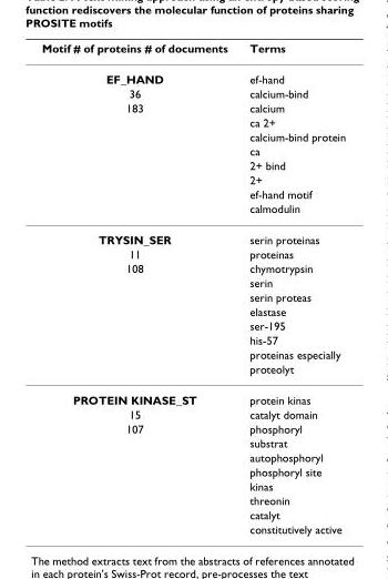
<table><thead><tr><td>Motif # of proteins # of documents</td><td>Terms</td></tr></thead><tbody><tr><td>EF_HAND</td><td>ef-hand</td></tr><tr><td>36</td><td>calcium-bind</td></tr><tr><td rowspan="8">183</td><td>calcium</td></tr><tr><td>ca 2+</td></tr><tr><td>calcium-bind protein</td></tr><tr><td>ca</td></tr><tr><td>2+ bind</td></tr><tr><td>2+</td></tr><tr><td>ef-hand motif</td></tr><tr><td>calmodulin</td></tr><tr><td>TRYSIN_SER</td><td>serin proteinas</td></tr><tr><td>11</td><td>proteinas</td></tr><tr><td rowspan="8">108</td><td>chymotrypsin</td></tr><tr><td>serin</td></tr><tr><td>serin proteas</td></tr><tr><td>elastase</td></tr><tr><td>ser-195</td></tr><tr><td>his-57</td></tr><tr><td>proteinas especially</td></tr><tr><td>proteolyt</td></tr><tr><td>PROTEIN KINASE_ST</td><td>protein kinas</td></tr><tr><td>15</td><td>catalyt domain</td></tr><tr><td rowspan="8">107</td><td>phosphoryl</td></tr><tr><td>substrat</td></tr><tr><td>autophosphoryl</td></tr><tr><td>phosphoryl site</td></tr><tr><td>kinas</td></tr><tr><td>threonin</td></tr><tr><td>catalyt</td></tr><tr><td>constitutively active</td></tr></tbody></table>